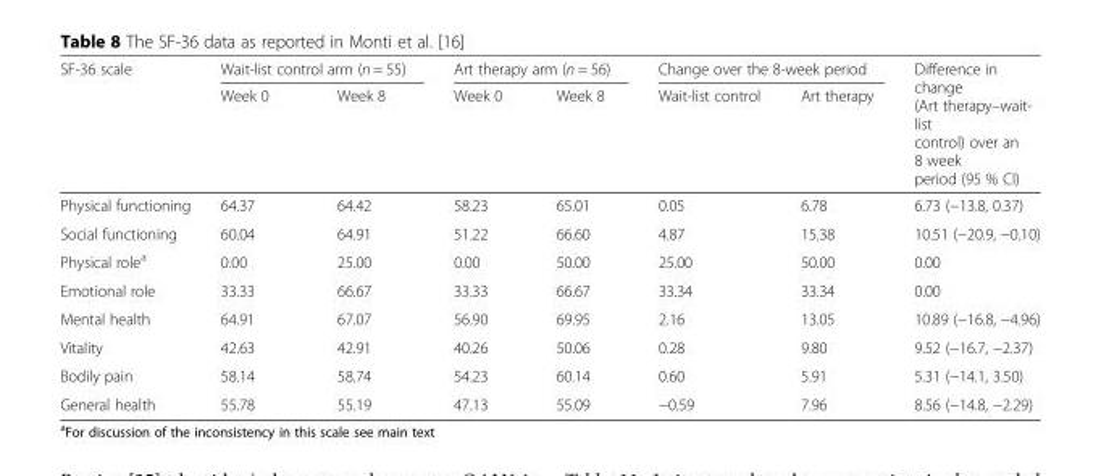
<table><thead><tr><td rowspan="2">SF-36 scale</td><td colspan="2">Wait-list control arm (n = 55)</td><td colspan="2">Art therapy arm (n = 56)</td><td colspan="2">Change over the 8-week period</td><td rowspan="2">Difference in change (Art therapy–wait- list control) over an 8 week period (95 % CI)</td></tr><tr><td>Week 0</td><td>Week 8</td><td>Week 0</td><td>Week 8</td><td>Wait-list control</td><td>Art therapy</td></tr></thead><tbody><tr><td>Physical functioning</td><td>64.37</td><td>64.42</td><td>58.23</td><td>65.01</td><td>0.05</td><td>6.78</td><td>6.73 (−13.8, 0.37)</td></tr><tr><td>Social functioning</td><td>60.04</td><td>64.91</td><td>51.22</td><td>66.60</td><td>4.87</td><td>15.38</td><td>10.51 (−20.9, −0.10)</td></tr><tr><td>Physical role<sup>a</sup></td><td>0.00</td><td>25.00</td><td>0.00</td><td>50.00</td><td>25.00</td><td>50.00</td><td>0.00</td></tr><tr><td>Emotional role</td><td>33.33</td><td>66.67</td><td>33.33</td><td>66.67</td><td>33.34</td><td>33.34</td><td>0.00</td></tr><tr><td>Mental health</td><td>64.91</td><td>67.07</td><td>56.90</td><td>69.95</td><td>2.16</td><td>13.05</td><td>10.89 (−16.8, −4.96)</td></tr><tr><td>Vitality</td><td>42.63</td><td>42.91</td><td>40.26</td><td>50.06</td><td>0.28</td><td>9.80</td><td>9.52 (−16.7, −2.37)</td></tr><tr><td>Bodily pain</td><td>58.14</td><td>58.74</td><td>54.23</td><td>60.14</td><td>0.60</td><td>5.91</td><td>5.31 (−14.1, 3.50)</td></tr><tr><td>General health</td><td>55.78</td><td>55.19</td><td>47.13</td><td>55.09</td><td>−0.59</td><td>7.96</td><td>8.56 (−14.8, −2.29)</td></tr></tbody></table>